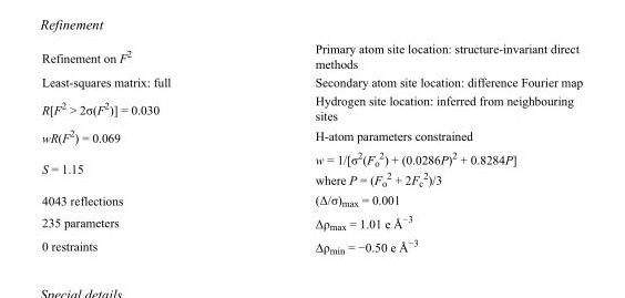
<table><tbody><tr><td>Refinement on F<sup>2</sup></td><td>Primary atom site location: structure-invariant direct methods</td></tr><tr><td>Least-squares matrix: full</td><td>Secondary atom site location: difference Fourier map</td></tr><tr><td>R[F<sup>2</sup> &gt; 2σ(F<sup>2</sup>)] = 0.030</td><td>Hydrogen site location: inferred from neighbouring sites</td></tr><tr><td>wR(F<sup>2</sup>) = 0.069</td><td>H-atom parameters constrained</td></tr><tr><td>S = 1.15</td><td>w = 1/[σ<sup>2</sup>(F<sub>o</sub> <sup>2</sup>) + (0.0286P)<sup>2</sup> + 0.8284P] where P = (F<sub>o</sub> <sup>2</sup> + 2F<sub>c</sub> <sup>2</sup>)/3</td></tr><tr><td>4043 reflections</td><td>(Δ/σ)<sub>max</sub> = 0.001</td></tr><tr><td>235 parameters</td><td>Δρ<sub>max</sub> = 1.01 e Å<sup>−3</sup></td></tr><tr><td>0 restraints</td><td>Δρ<sub>min</sub> = −0.50 e Å<sup>−3</sup></td></tr></tbody></table>